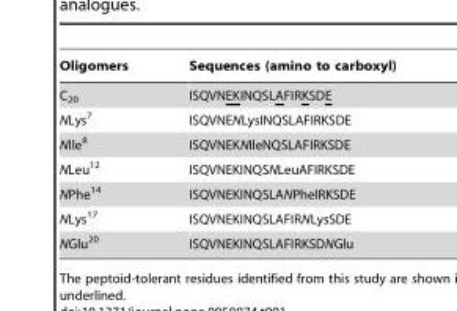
<table><thead><tr><td>Oligomers</td><td>Sequences (amino to carboxyl)</td></tr></thead><tbody><tr><td>C<sub>20</sub></td><td>ISQVNEKINQSLAFIRKSDE</td></tr><tr><td>NLys<sup>7</sup></td><td>ISQVNENLysINQSLAFIRKSDE</td></tr><tr><td>NIle<sup>8</sup></td><td>ISQVNEKNIleNQSLAFIRKSDE</td></tr><tr><td>NLeu<sup>12</sup></td><td>ISQVNEKINQSNLeuAFIRKSDE</td></tr><tr><td>NPhe<sup>14</sup></td><td>ISQVNEKINQSLANPheIRKSDE</td></tr><tr><td>NLys<sup>17</sup></td><td>ISQVNEKINQSLAFIRNLysSDE</td></tr><tr><td>NGlu<sup>20</sup></td><td>ISQVNEKINQSLAFIRKSDNGlu</td></tr></tbody></table>